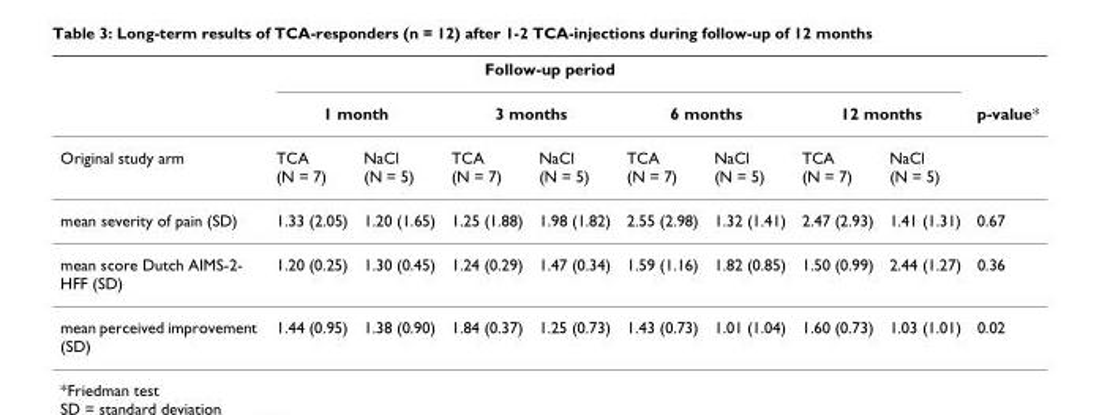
<table><thead><tr><td colspan="10">Follow-up period</td></tr><tr><td rowspan="2">Original study arm</td><td colspan="2">1 month</td><td colspan="2">3 months</td><td colspan="2">6 months</td><td colspan="2">12 months</td><td rowspan="2">p-value*</td></tr><tr><td>TCA (N = 7)</td><td>NaCl (N = 5)</td><td>TCA (N = 7)</td><td>NaCl (N = 5)</td><td>TCA (N = 7)</td><td>NaCl (N = 5)</td><td>TCA (N = 7)</td><td>NaCl (N = 5)</td></tr></thead><tbody><tr><td>mean severity of pain (SD)</td><td>1.33 (2.05)</td><td>1.20 (1.65)</td><td>1.25 (1.88)</td><td>1.98 (1.82)</td><td>2.55 (2.98)</td><td>1.32 (1.41)</td><td>2.47 (2.93)</td><td>1.41 (1.31)</td><td>0.67</td></tr><tr><td>mean score Dutch AIMS-2- HFF (SD)</td><td>1.20 (0.25)</td><td>1.30 (0.45)</td><td>1.24 (0.29)</td><td>1.47 (0.34)</td><td>1.59 (1.16)</td><td>1.82 (0.85)</td><td>1.50 (0.99)</td><td>2.44 (1.27)</td><td>0.36</td></tr><tr><td>mean perceived improvement (SD)</td><td>1.44 (0.95)</td><td>1.38 (0.90)</td><td>1.84 (0.37)</td><td>1.25 (0.73)</td><td>1.43 (0.73)</td><td>1.01 (1.04)</td><td>1.60 (0.73)</td><td>1.03 (1.01)</td><td>0.02</td></tr></tbody></table>